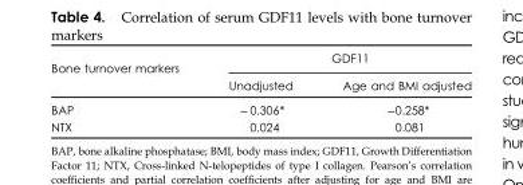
<table><thead><tr><td rowspan="2">Bone turnover markers</td><td colspan="2">GDF11</td></tr><tr><td>Unadjusted</td><td>Age and BMI adjusted</td></tr></thead><tbody><tr><td>BAP</td><td>− 0.306*</td><td>−0.258*</td></tr><tr><td>NTX</td><td>0.024</td><td>0.081</td></tr></tbody></table>